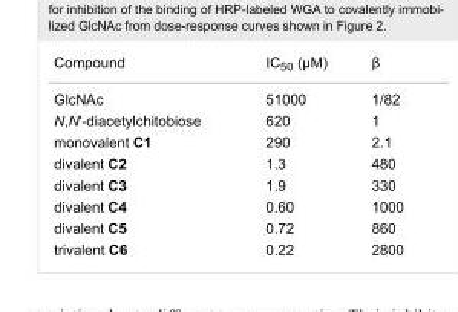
<table><tbody><tr><td>Compound</td><td>IC<sub>50</sub> (µM)</td><td>β</td></tr><tr><td>GlcNAc</td><td>51000</td><td>1/82</td></tr><tr><td>N,N&#x27;-diacetylchitobiose</td><td>620</td><td>1</td></tr><tr><td>monovalent C1</td><td>290</td><td>2.1</td></tr><tr><td>divalent C2</td><td>1.3</td><td>480</td></tr><tr><td>divalent C3</td><td>1.9</td><td>330</td></tr><tr><td>divalent C4</td><td>0.60</td><td>1000</td></tr><tr><td>divalent C5</td><td>0.72</td><td>860</td></tr><tr><td>trivalent C6</td><td>0.22</td><td>2800</td></tr></tbody></table>